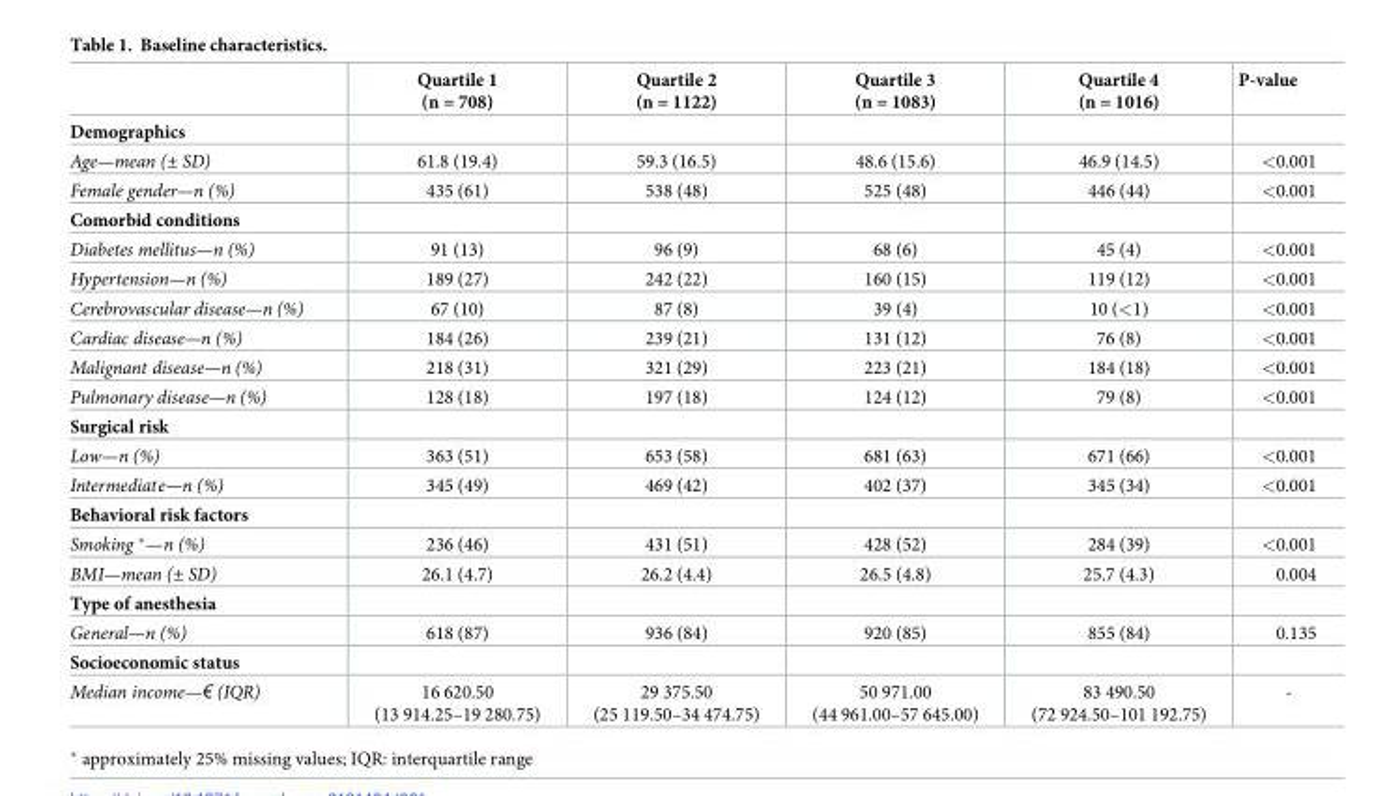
<table><thead><tr><td></td><td>Quartile 1 (n = 708)</td><td>Quartile 2 (n = 1122)</td><td>Quartile 3 (n = 1083)</td><td>Quartile 4 (n = 1016)</td><td>P-value</td></tr></thead><tbody><tr><td colspan="6">Demographics</td></tr><tr><td>Age—mean (± SD)</td><td>61.8 (19.4)</td><td>59.3 (16.5)</td><td>48.6 (15.6)</td><td>46.9 (14.5)</td><td>&lt;0.001</td></tr><tr><td>Female gender—n (%)</td><td>435 (61)</td><td>538 (48)</td><td>525 (48)</td><td>446 (44)</td><td>&lt;0.001</td></tr><tr><td colspan="6">Comorbid conditions</td></tr><tr><td>Diabetes mellitus—n (%)</td><td>91 (13)</td><td>96 (9)</td><td>68 (6)</td><td>45 (4)</td><td>&lt;0.001</td></tr><tr><td>Hypertension—n (%)</td><td>189 (27)</td><td>242 (22)</td><td>160 (15)</td><td>119 (12)</td><td>&lt;0.001</td></tr><tr><td>Cerebrovascular disease—n (%)</td><td>67 (10)</td><td>87 (8)</td><td>39 (4)</td><td>10 (&lt;1)</td><td>&lt;0.001</td></tr><tr><td>Cardiac disease—n (%)</td><td>184 (26)</td><td>239 (21)</td><td>131 (12)</td><td>76 (8)</td><td>&lt;0.001</td></tr><tr><td>Malignant disease—n (%)</td><td>218 (31)</td><td>321 (29)</td><td>223 (21)</td><td>184 (18)</td><td>&lt;0.001</td></tr><tr><td>Pulmonary disease—n (%)</td><td>128 (18)</td><td>197 (18)</td><td>124 (12)</td><td>79 (8)</td><td>&lt;0.001</td></tr><tr><td colspan="6">Surgical risk</td></tr><tr><td>Low—n (%)</td><td>363 (51)</td><td>653 (58)</td><td>681 (63)</td><td>671 (66)</td><td>&lt;0.001</td></tr><tr><td>Intermediate—n (%)</td><td>345 (49)</td><td>469 (42)</td><td>402 (37)</td><td>345 (34)</td><td>&lt;0.001</td></tr><tr><td colspan="6">Behavioral risk factors</td></tr><tr><td>Smoking *—n (%)</td><td>236 (46)</td><td>431 (51)</td><td>428 (52)</td><td>284 (39)</td><td>&lt;0.001</td></tr><tr><td>BMI—mean (± SD)</td><td>26.1 (4.7)</td><td>26.2 (4.4)</td><td>26.5 (4.8)</td><td>25.7 (4.3)</td><td>0.004</td></tr><tr><td colspan="6">Type of anesthesia</td></tr><tr><td>General—n (%)</td><td>618 (87)</td><td>936 (84)</td><td>920 (85)</td><td>855 (84)</td><td>0.135</td></tr><tr><td colspan="6">Socioeconomic status</td></tr><tr><td>Median income—€ (IQR)</td><td>16 620.50 (13 914.25–19 280.75)</td><td>29 375.50 (25 119.50–34 474.75)</td><td>50 971.00 (44 961.00–57 645.00)</td><td>83 490.50 (72 924.50–101 192.75)</td><td>-</td></tr></tbody></table>